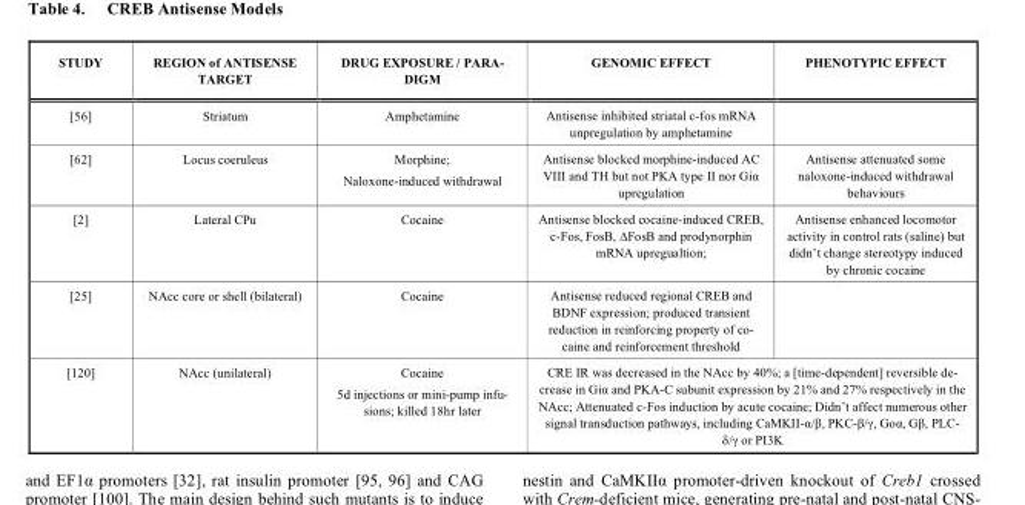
<table><thead><tr><td>STUDY</td><td>REGION of ANTISENSE TARGET</td><td>DRUG EXPOSURE / PARA- DIGM</td><td>GENOMIC EFFECT</td><td>PHENOTYPIC EFFECT</td></tr></thead><tbody><tr><td>[56]</td><td>Striatum</td><td>Amphetamine</td><td>Antisense inhibited striatal c-fos mRNA unpregulation by amphetamine</td><td></td></tr><tr><td>[62]</td><td>Locus coeruleus</td><td>Morphine; Naloxone-induced withdrawal</td><td>Antisense blocked morphine-induced AC VIII and TH but not PKA type II nor Giα upregulation</td><td>Antisense attenuated some naloxone-induced withdrawal behaviours</td></tr><tr><td>[2]</td><td>Lateral CPu</td><td>Cocaine</td><td>Antisense blocked cocaine-induced CREB, c-Fos, FosB, ΔFosB and prodynorphin mRNA upregualtion;</td><td>Antisense enhanced locomotor activity in control rats (saline) but didn’t change stereotypy induced by chronic cocaine</td></tr><tr><td>[25]</td><td>NAcc core or shell (bilateral)</td><td>Cocaine</td><td>Antisense reduced regional CREB and BDNF expression; produced transient reduction in reinforcing property of co- caine and reinforcement threshold</td><td></td></tr><tr><td>[120]</td><td>NAcc (unilateral)</td><td>Cocaine 5d injections or mini-pump infu- sions; killed 18hr later</td><td colspan="2">CRE IR was decreased in the NAcc by 40%; a [time-dependent] reversible de- crease in Gi� and PKA-C subunit expression by 21% and 27% respectively in the NAcc; Attenuated c-Fos induction by acute cocaine; Didn’t affect numerous other signal transduction pathways, including CaMKII-�/�, PKC-�/�, Go�, G�, PLC- �/� or PI3K</td></tr></tbody></table>